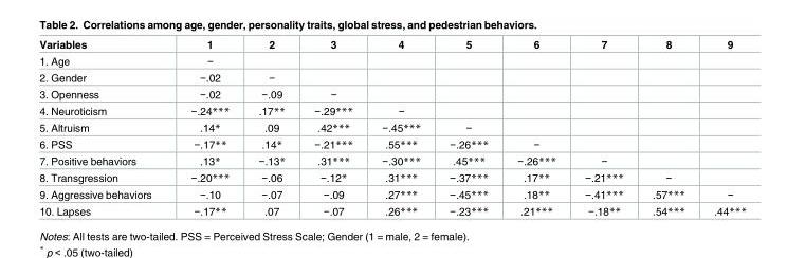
<table><thead><tr><td>Variables</td><td>1</td><td>2</td><td>3</td><td>4</td><td>5</td><td>6</td><td>7</td><td>8</td><td>9</td></tr></thead><tbody><tr><td>1. Age</td><td>−</td><td></td><td></td><td></td><td></td><td></td><td></td><td></td><td></td></tr><tr><td>2. Gender</td><td>−.02</td><td>−</td><td></td><td></td><td></td><td></td><td></td><td></td><td></td></tr><tr><td>3. Openness</td><td>−.02</td><td>−.09</td><td>−</td><td></td><td></td><td></td><td></td><td></td><td></td></tr><tr><td>4. Neuroticism</td><td>−.24***</td><td>.17**</td><td>−.29***</td><td>−</td><td></td><td></td><td></td><td></td><td></td></tr><tr><td>5. Altruism</td><td>.14*</td><td>.09</td><td>.42***</td><td>−.45***</td><td>−</td><td></td><td></td><td></td><td></td></tr><tr><td>6. PSS</td><td>−.17**</td><td>.14*</td><td>−.21***</td><td>.55***</td><td>−.26***</td><td>−</td><td></td><td></td><td></td></tr><tr><td>7. Positive behaviors</td><td>.13*</td><td>−.13*</td><td>.31***</td><td>−.30***</td><td>.45***</td><td>−.26***</td><td>−</td><td></td><td></td></tr><tr><td>8. Transgression</td><td>−.20***</td><td>−.06</td><td>−.12*</td><td>.31***</td><td>−.37***</td><td>.17**</td><td>−.21***</td><td>−</td><td></td></tr><tr><td>9. Aggressive behaviors</td><td>−.10</td><td>−.07</td><td>−.09</td><td>.27***</td><td>−.45***</td><td>.18**</td><td>−.41***</td><td>.57***</td><td>−</td></tr><tr><td>10. Lapses</td><td>−.17**</td><td>.07</td><td>−.07</td><td>.26***</td><td>−.23***</td><td>.21***</td><td>−.18**</td><td>.54***</td><td>.44***</td></tr></tbody></table>